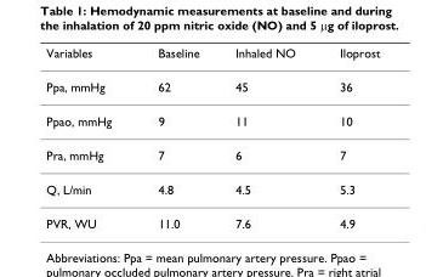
<table><thead><tr><td>Variables</td><td>Baseline</td><td>Inhaled NO</td><td>Iloprost</td></tr></thead><tbody><tr><td>Ppa, mmHg</td><td>62</td><td>45</td><td>36</td></tr><tr><td>Ppao, mmHg</td><td>9</td><td>11</td><td>10</td></tr><tr><td>Pra, mmHg</td><td>7</td><td>6</td><td>7</td></tr><tr><td>Q, L/min</td><td>4.8</td><td>4.5</td><td>5.3</td></tr><tr><td>PVR, WU</td><td>11.0</td><td>7.6</td><td>4.9</td></tr></tbody></table>